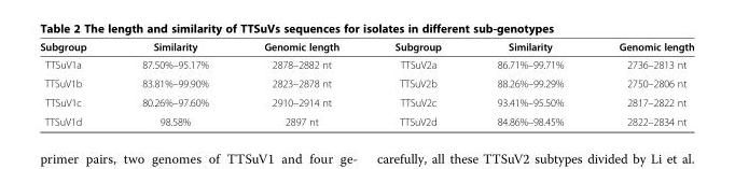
<table><thead><tr><td>Subgroup</td><td>Similarity</td><td>Genomic length</td><td>Subgroup</td><td>Similarity</td><td>Genomic length</td></tr></thead><tbody><tr><td>TTSuV1a</td><td>87.50%–95.17%</td><td>2878–2882 nt</td><td>TTSuV2a</td><td>86.71%–99.71%</td><td>2736–2813 nt</td></tr><tr><td>TTSuV1b</td><td>83.81%–99.90%</td><td>2823–2878 nt</td><td>TTSuV2b</td><td>88.26%–99.29%</td><td>2750–2806 nt</td></tr><tr><td>TTSuV1c</td><td>80.26%–97.60%</td><td>2910–2914 nt</td><td>TTSuV2c</td><td>93.41%–95.50%</td><td>2817–2822 nt</td></tr><tr><td>TTSuV1d</td><td>98.58%</td><td>2897 nt</td><td>TTSuV2d</td><td>84.86%–98.45%</td><td>2822–2834 nt</td></tr></tbody></table>